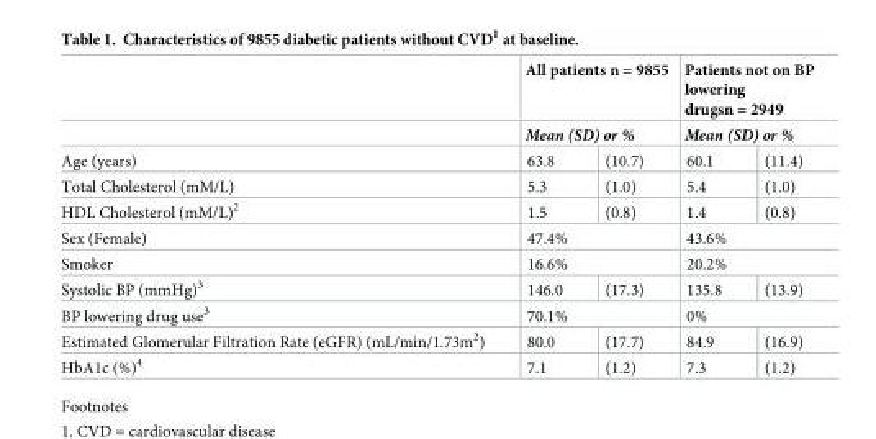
<table><thead><tr><td rowspan="3">Age (years)</td><td rowspan="2" colspan="2">All patients n = 9855 Mean (SD) or %</td><td rowspan="2" colspan="2">Patients not on BP lowering drugsn = 2949 Mean (SD) or %</td></tr><tr></tr><tr><td>63.8</td><td>(10.7)</td><td>60.1</td><td>(11.4)</td></tr></thead><tbody><tr><td>Total Cholesterol (mM/L)</td><td>5.3</td><td>(1.0)</td><td>5.4</td><td>(1.0)</td></tr><tr><td>HDL Cholesterol (mM/L)<sup>2</sup></td><td>1.5</td><td>(0.8)</td><td>1.4</td><td>(0.8)</td></tr><tr><td>Sex (Female)</td><td colspan="2">47.4%</td><td colspan="2">43.6%</td></tr><tr><td>Smoker</td><td colspan="2">16.6%</td><td colspan="2">20.2%</td></tr><tr><td>Systolic BP (mmHg)<sup>3</sup></td><td>146.0</td><td>(17.3)</td><td>135.8</td><td>(13.9)</td></tr><tr><td>BP lowering drug use<sup>3</sup></td><td colspan="2">70.1%</td><td colspan="2">0%</td></tr><tr><td>Estimated Glomerular Filtration Rate (eGFR) (mL/min/1.73m<sup>2</sup>)</td><td>80.0</td><td>(17.7)</td><td>84.9</td><td>(16.9)</td></tr><tr><td>HbA1c (%)<sup>4</sup></td><td>7.1</td><td>(1.2)</td><td>7.3</td><td>(1.2)</td></tr></tbody></table>